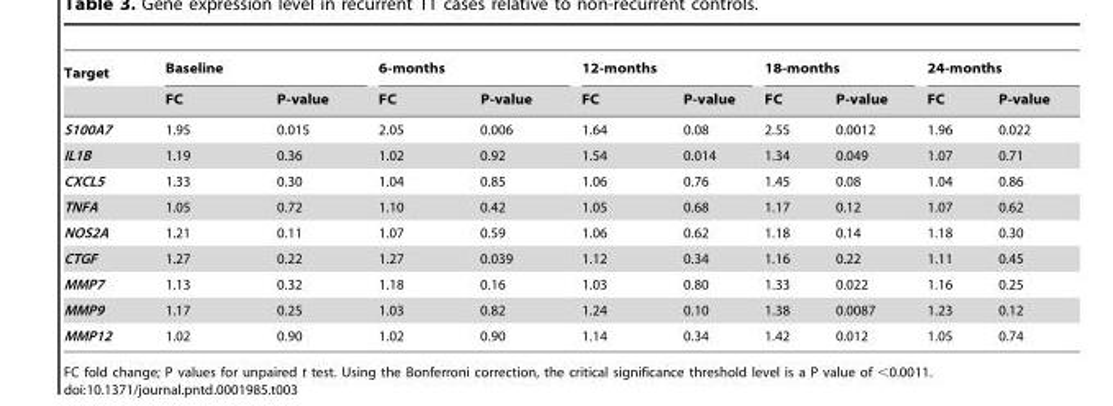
<table><thead><tr><td rowspan="2">Target</td><td colspan="2">Baseline</td><td colspan="2">6-months</td><td colspan="2">12-months</td><td colspan="2">18-months</td><td colspan="2">24-months</td></tr><tr><td>FC</td><td>P-value</td><td>FC</td><td>P-value</td><td>FC</td><td>P-value</td><td>FC</td><td>P-value</td><td>FC</td><td>P-value</td></tr></thead><tbody><tr><td>S100A7</td><td>1.95</td><td>0.015</td><td>2.05</td><td>0.006</td><td>1.64</td><td>0.08</td><td>2.55</td><td>0.0012</td><td>1.96</td><td>0.022</td></tr><tr><td>IL1B</td><td>1.19</td><td>0.36</td><td>1.02</td><td>0.92</td><td>1.54</td><td>0.014</td><td>1.34</td><td>0.049</td><td>1.07</td><td>0.71</td></tr><tr><td>CXCL5</td><td>1.33</td><td>0.30</td><td>1.04</td><td>0.85</td><td>1.06</td><td>0.76</td><td>1.45</td><td>0.08</td><td>1.04</td><td>0.86</td></tr><tr><td>TNFA</td><td>1.05</td><td>0.72</td><td>1.10</td><td>0.42</td><td>1.05</td><td>0.68</td><td>1.17</td><td>0.12</td><td>1.07</td><td>0.62</td></tr><tr><td>NOS2A</td><td>1.21</td><td>0.11</td><td>1.07</td><td>0.59</td><td>1.06</td><td>0.62</td><td>1.18</td><td>0.14</td><td>1.18</td><td>0.30</td></tr><tr><td>CTGF</td><td>1.27</td><td>0.22</td><td>1.27</td><td>0.039</td><td>1.12</td><td>0.34</td><td>1.16</td><td>0.22</td><td>1.11</td><td>0.45</td></tr><tr><td>MMP7</td><td>1.13</td><td>0.32</td><td>1.18</td><td>0.16</td><td>1.03</td><td>0.80</td><td>1.33</td><td>0.022</td><td>1.16</td><td>0.25</td></tr><tr><td>MMP9</td><td>1.17</td><td>0.25</td><td>1.03</td><td>0.82</td><td>1.24</td><td>0.10</td><td>1.38</td><td>0.0087</td><td>1.23</td><td>0.12</td></tr><tr><td>MMP12</td><td>1.02</td><td>0.90</td><td>1.02</td><td>0.90</td><td>1.14</td><td>0.34</td><td>1.42</td><td>0.012</td><td>1.05</td><td>0.74</td></tr></tbody></table>